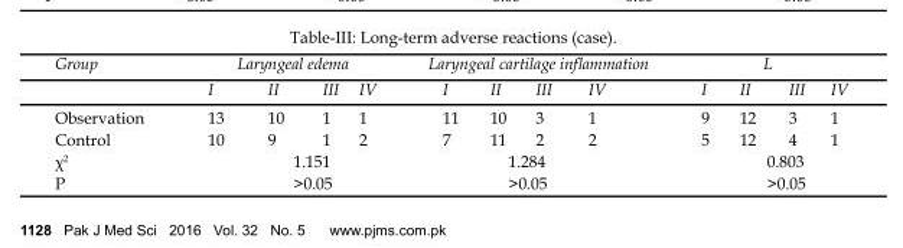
<table><thead><tr><td rowspan="2">Group</td><td colspan="4">Laryngeal edema</td><td colspan="4">Laryngeal cartilage inflammation</td><td colspan="4">L</td></tr><tr><td>I</td><td>II</td><td>III</td><td>IV</td><td>I</td><td>II</td><td>III</td><td>IV</td><td>I</td><td>II</td><td>III</td><td>IV</td></tr></thead><tbody><tr><td>Observation</td><td>13</td><td>10</td><td>1</td><td>1</td><td>11</td><td>10</td><td>3</td><td>1</td><td>9</td><td>12</td><td>3</td><td>1</td></tr><tr><td>Control</td><td>10</td><td>9</td><td>1</td><td>2</td><td>7</td><td>11</td><td>2</td><td>2</td><td>5</td><td>12</td><td>4</td><td>1</td></tr><tr><td>χ<sup>2</sup></td><td colspan="4">1.151</td><td colspan="4">1.284</td><td colspan="4">0.803</td></tr><tr><td>P</td><td colspan="4">&gt;0.05</td><td colspan="4">&gt;0.05</td><td colspan="4">&gt;0.05</td></tr></tbody></table>